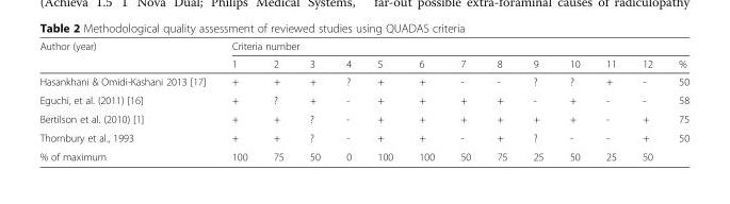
<table><thead><tr><td rowspan="2">Author (year)</td><td colspan="13">Criteria number</td></tr><tr><td>1</td><td>2</td><td>3</td><td>4</td><td>5</td><td>6</td><td>7</td><td>8</td><td>9</td><td>10</td><td>11</td><td>12</td><td>%</td></tr></thead><tbody><tr><td>Hasankhani &amp; Omidi-Kashani 2013 [17]</td><td>+</td><td>+</td><td>+</td><td>?</td><td>+</td><td>+</td><td>-</td><td>-</td><td>?</td><td>?</td><td>+</td><td>-</td><td>50</td></tr><tr><td>Eguchi, et al. (2011) [16]</td><td>+</td><td>?</td><td>+</td><td>-</td><td>+</td><td>+</td><td>+</td><td>+</td><td>-</td><td>+</td><td>-</td><td>-</td><td>58</td></tr><tr><td>Bertilson et al. (2010) [1]</td><td>+</td><td>+</td><td>?</td><td>-</td><td>+</td><td>+</td><td>+</td><td>+</td><td>+</td><td>+</td><td>-</td><td>+</td><td>75</td></tr><tr><td>Thornbury et al., 1993</td><td>+</td><td>+</td><td>?</td><td>-</td><td>+</td><td>+</td><td>-</td><td>+</td><td>?</td><td>-</td><td>-</td><td>+</td><td>50</td></tr><tr><td>% of maximum</td><td>100</td><td>75</td><td>50</td><td>0</td><td>100</td><td>100</td><td>50</td><td>75</td><td>25</td><td>50</td><td>25</td><td>50</td><td></td></tr></tbody></table>